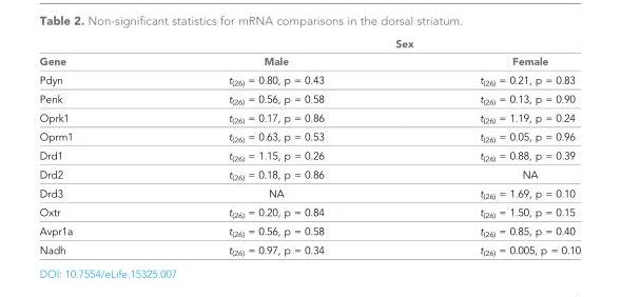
<table><thead><tr><td rowspan="2">Gene</td><td colspan="2">Sex</td></tr><tr><td>Male</td><td>Female</td></tr></thead><tbody><tr><td>Pdyn</td><td>t<sub>(26)</sub> = 0.80, p = 0.43</td><td>t<sub>(26)</sub> = 0.21, p = 0.83</td></tr><tr><td>Penk</td><td>t<sub>(26)</sub> = 0.56, p = 0.58</td><td>t<sub>(26)</sub> = 0.13, p = 0.90</td></tr><tr><td>Oprk1</td><td>t<sub>(26)</sub> = 0.17, p = 0.86</td><td>t<sub>(26)</sub> = 1.19, p = 0.24</td></tr><tr><td>Oprm1</td><td>t<sub>(26)</sub> = 0.63, p = 0.53</td><td>t<sub>(26)</sub> = 0.05, p = 0.96</td></tr><tr><td>Drd1</td><td>t<sub>(26)</sub> = 1.15, p = 0.26</td><td>t<sub>(26)</sub> = 0.88, p = 0.39</td></tr><tr><td>Drd2</td><td>t<sub>(26)</sub> = 0.18, p = 0.86</td><td>NA</td></tr><tr><td>Drd3</td><td>NA</td><td>t<sub>(26)</sub> = 1.69, p = 0.10</td></tr><tr><td>Oxtr</td><td>t<sub>(26)</sub> = 0.20, p = 0.84</td><td>t<sub>(26)</sub> = 1.50, p = 0.15</td></tr><tr><td>Avpr1a</td><td>t<sub>(26)</sub> = 0.56, p = 0.58</td><td>t<sub>(26)</sub> = 0.85, p = 0.40</td></tr><tr><td>Nadh</td><td>t<sub>(26)</sub> = 0.97, p = 0.34</td><td>t<sub>(26)</sub> = 0.005, p = 0.10</td></tr></tbody></table>